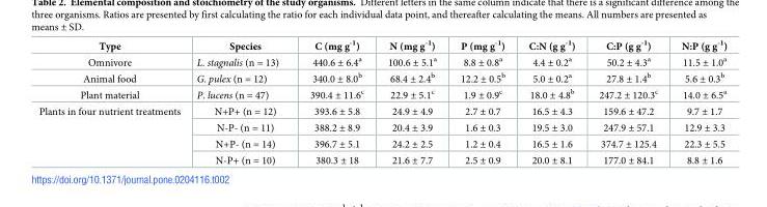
<table><thead><tr><td>Type</td><td>Species</td><td>C (mg g<sup>-1</sup>)</td><td>N (mg g<sup>-1</sup>)</td><td>P (mg g<sup>-1</sup>)</td><td>C:N (g g<sup>-1</sup>)</td><td>C:P (g g<sup>-1</sup>)</td><td>N:P (g g<sup>-1</sup>)</td></tr></thead><tbody><tr><td>Omnivore</td><td>L. stagnalis (n = 13)</td><td>440.6 ± 6.4<sup>a</sup></td><td>100.6 ± 5.1<sup>a</sup></td><td>8.8 ± 0.8<sup>a</sup></td><td>4.4 ± 0.2<sup>a</sup></td><td>50.2 ± 4.3<sup>a</sup></td><td>11.5 ± 1.0<sup>a</sup></td></tr><tr><td>Animal food</td><td>G. pulex (n = 12)</td><td>340.0 ± 8.0<sup>b</sup></td><td>68.4 ± 2.4<sup>b</sup></td><td>12.2 ± 0.5<sup>b</sup></td><td>5.0 ± 0.2<sup>a</sup></td><td>27.8 ± 1.4<sup>b</sup></td><td>5.6 ± 0.3<sup>b</sup></td></tr><tr><td>Plant material</td><td>P. lucens (n = 47)</td><td>390.4 ± 11.6<sup>c</sup></td><td>22.9 ± 5.1<sup>c</sup></td><td>1.9 ± 0.9<sup>c</sup></td><td>18.0 ± 4.8<sup>b</sup></td><td>247.2 ± 120.3<sup>c</sup></td><td>14.0 ± 6.5<sup>a</sup></td></tr><tr><td rowspan="4">Plants in four nutrient treatments</td><td>N+P+ (n = 12)</td><td>393.6 ± 5.8</td><td>24.9 ± 4.9</td><td>2.7 ± 0.7</td><td>16.5 ± 4.3</td><td>159.6 ± 47.2</td><td>9.7 ± 1.7</td></tr><tr><td>N-P- (n = 11)</td><td>388.2 ± 8.9</td><td>20.4 ± 3.9</td><td>1.6 ± 0.3</td><td>19.5 ± 3.0</td><td>247.9 ± 57.1</td><td>12.9 ± 3.3</td></tr><tr><td>N+P- (n = 14)</td><td>396.7 ± 5.1</td><td>24.2 ± 2.5</td><td>1.2 ± 0.4</td><td>16.5 ± 1.6</td><td>374.7 ± 125.4</td><td>22.3 ± 5.5</td></tr><tr><td>N-P+ (n = 10)</td><td>380.3 ± 18</td><td>21.6 ± 7.7</td><td>2.5 ± 0.9</td><td>20.0 ± 8.1</td><td>177.0 ± 84.1</td><td>8.8 ± 1.6</td></tr></tbody></table>